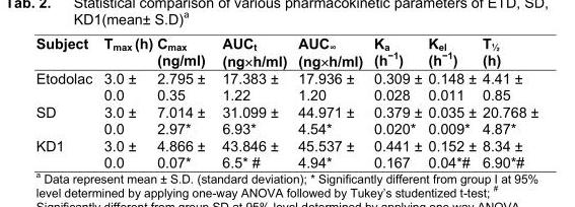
<table><thead><tr><td>Subject</td><td>T<sub>max</sub> (h)</td><td>C<sub>max</sub> (ng/ml)</td><td>AUC<sub>t</sub> (ng×h/ml)</td><td>AUC<sub>∞</sub> (ng×h/ml)</td><td>K<sub>a</sub> (h<sup>−1</sup>)</td><td>K<sub>el</sub> (h<sup>−1</sup>)</td><td>T<sub>½</sub> (h)</td></tr></thead><tbody><tr><td>Etodolac</td><td>3.0 ± 0.0</td><td>2.795 ± 0.35</td><td>17.383 ± 1.22</td><td>17.936 ± 1.20</td><td>0.309 ± 0.028</td><td>0.148 ± 0.011</td><td>4.41 ± 0.85</td></tr><tr><td>SD</td><td>3.0 ± 0.0</td><td>7.014 ± 2.97*</td><td>31.099 ± 6.93*</td><td>44.971 ± 4.54*</td><td>0.379 ± 0.020*</td><td>0.035 ± 0.009*</td><td>20.768 ± 4.87*</td></tr><tr><td>KD1</td><td>3.0 ± 0.0</td><td>4.866 ± 0.07*</td><td>43.846 ± 6.5* #</td><td>45.537 ± 4.94*</td><td>0.441 ± 0.167</td><td>0.152 ± 0.04*#</td><td>8.34 ± 6.90*#</td></tr></tbody></table>